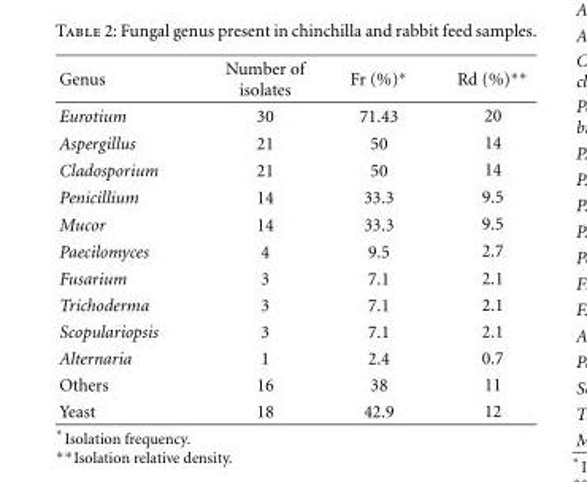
<table><thead><tr><td>Genus</td><td>Number of isolates</td><td>Fr (%)∗</td><td>Rd (%)∗∗</td></tr></thead><tbody><tr><td>Eurotium</td><td>30</td><td>71.43</td><td>20</td></tr><tr><td>Aspergillus</td><td>21</td><td>50</td><td>14</td></tr><tr><td>Cladosporium</td><td>21</td><td>50</td><td>14</td></tr><tr><td>Penicillium</td><td>14</td><td>33.3</td><td>9.5</td></tr><tr><td>Mucor</td><td>14</td><td>33.3</td><td>9.5</td></tr><tr><td>Paecilomyces</td><td>4</td><td>9.5</td><td>2.7</td></tr><tr><td>Fusarium</td><td>3</td><td>7.1</td><td>2.1</td></tr><tr><td>Trichoderma</td><td>3</td><td>7.1</td><td>2.1</td></tr><tr><td>Scopulariopsis</td><td>3</td><td>7.1</td><td>2.1</td></tr><tr><td>Alternaria</td><td>1</td><td>2.4</td><td>0.7</td></tr><tr><td>Others</td><td>16</td><td>38</td><td>11</td></tr><tr><td>Yeast</td><td>18</td><td>42.9</td><td>12</td></tr></tbody></table>